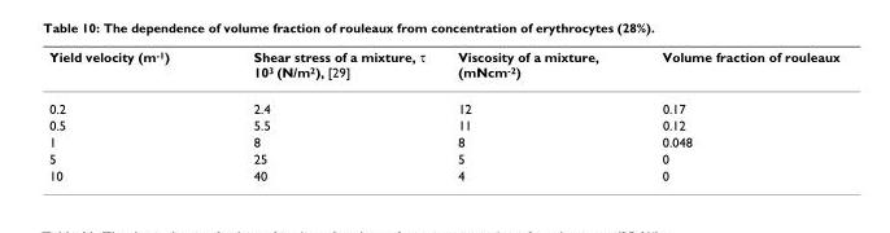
<table><thead><tr><td>Yield velocity (m<sup>-1</sup>)</td><td>Shear stress of a mixture, τ 10<sup>3</sup> (N/m<sup>2</sup>), [29]</td><td>Viscosity of a mixture, (mNcm<sup>-2</sup>)</td><td>Volume fraction of rouleaux</td></tr></thead><tbody><tr><td>0.2</td><td>2.4</td><td>12</td><td>0.17</td></tr><tr><td>0.5</td><td>5.5</td><td>11</td><td>0.12</td></tr><tr><td>1</td><td>8</td><td>8</td><td>0.048</td></tr><tr><td>5</td><td>25</td><td>5</td><td>0</td></tr><tr><td>10</td><td>40</td><td>4</td><td>0</td></tr></tbody></table>